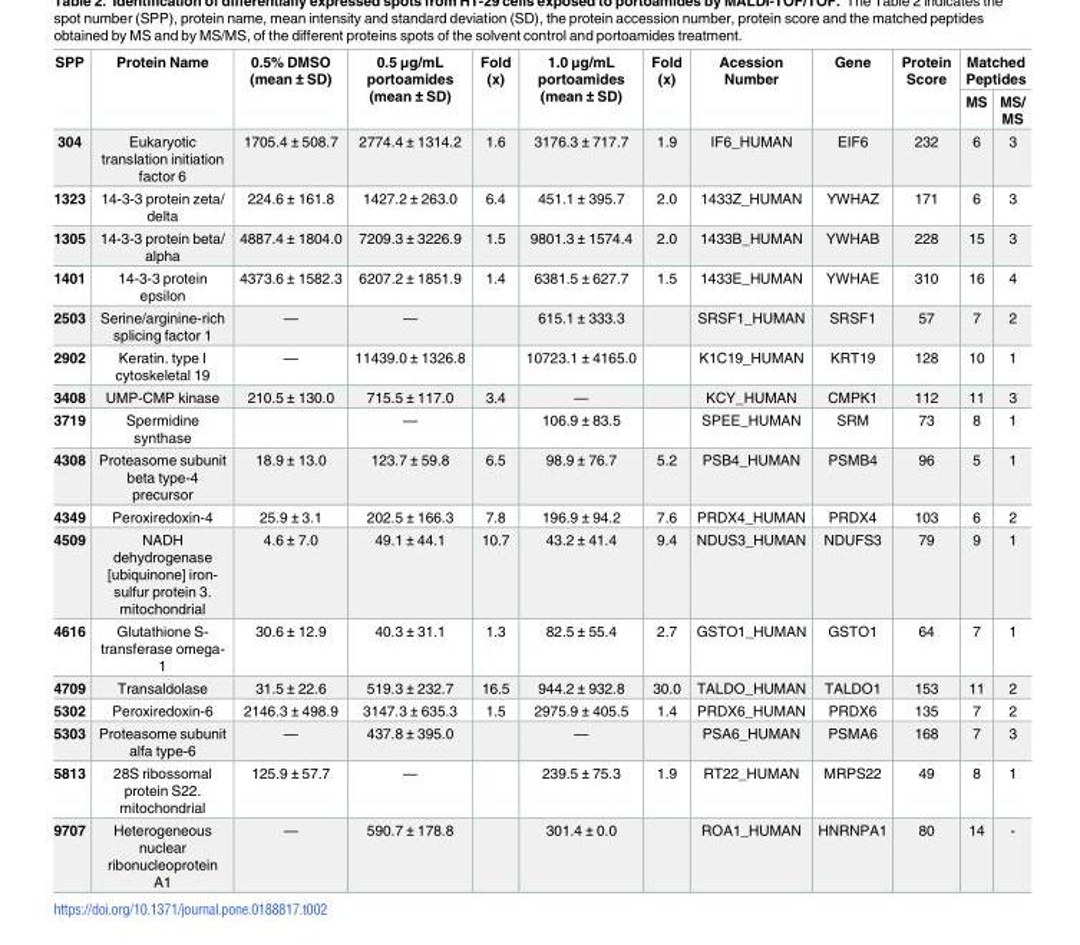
<table><thead><tr><td rowspan="2">SPP</td><td rowspan="2">Protein Name</td><td rowspan="2">0.5% DMSO (mean ± SD)</td><td rowspan="2">0.5 μg/mL portoamides (mean ± SD)</td><td rowspan="2">Fold (x)</td><td rowspan="2">1.0 μg/mL portoamides (mean ± SD)</td><td rowspan="2">Fold (x)</td><td rowspan="2">Acession Number</td><td rowspan="2">Gene</td><td rowspan="2">Protein Score</td><td colspan="2">Matched Peptides</td></tr><tr><td>MS</td><td>MS/ MS</td></tr></thead><tbody><tr><td>304</td><td>Eukaryotic translation initiation factor 6</td><td>1705.4 ± 508.7</td><td>2774.4 ± 1314.2</td><td>1.6</td><td>3176.3 ± 717.7</td><td>1.9</td><td>IF6_HUMAN</td><td>EIF6</td><td>232</td><td>6</td><td>3</td></tr><tr><td>1323</td><td>14-3-3 protein zeta/ delta</td><td>224.6 ± 161.8</td><td>1427.2 ± 263.0</td><td>6.4</td><td>451.1 ± 395.7</td><td>2.0</td><td>1433Z_HUMAN</td><td>YWHAZ</td><td>171</td><td>6</td><td>3</td></tr><tr><td>1305</td><td>14-3-3 protein beta/ alpha</td><td>4887.4 ± 1804.0</td><td>7209.3 ± 3226.9</td><td>1.5</td><td>9801.3 ± 1574.4</td><td>2.0</td><td>1433B_HUMAN</td><td>YWHAB</td><td>228</td><td>15</td><td>3</td></tr><tr><td>1401</td><td>14-3-3 protein epsilon</td><td>4373.6 ± 1582.3</td><td>6207.2 ± 1851.9</td><td>1.4</td><td>6381.5 ± 627.7</td><td>1.5</td><td>1433E_HUMAN</td><td>YWHAE</td><td>310</td><td>16</td><td>4</td></tr><tr><td>2503</td><td>Serine/arginine-rich splicing factor 1</td><td>—</td><td>—</td><td></td><td>615.1 ± 333.3</td><td></td><td>SRSF1_HUMAN</td><td>SRSF1</td><td>57</td><td>7</td><td>2</td></tr><tr><td>2902</td><td>Keratin. type I cytoskeletal 19</td><td>—</td><td>11439.0 ± 1326.8</td><td></td><td>10723.1 ± 4165.0</td><td></td><td>K1C19_HUMAN</td><td>KRT19</td><td>128</td><td>10</td><td>1</td></tr><tr><td>3408</td><td>UMP-CMP kinase</td><td>210.5 ± 130.0</td><td>715.5 ± 117.0</td><td>3.4</td><td>—</td><td></td><td>KCY_HUMAN</td><td>CMPK1</td><td>112</td><td>11</td><td>3</td></tr><tr><td>3719</td><td>Spermidine synthase</td><td></td><td>—</td><td></td><td>106.9 ± 83.5</td><td></td><td>SPEE_HUMAN</td><td>SRM</td><td>73</td><td>8</td><td>1</td></tr><tr><td>4308</td><td>Proteasome subunit beta type-4 precursor</td><td>18.9 ± 13.0</td><td>123.7 ± 59.8</td><td>6.5</td><td>98.9 ± 76.7</td><td>5.2</td><td>PSB4_HUMAN</td><td>PSMB4</td><td>96</td><td>5</td><td>1</td></tr><tr><td>4349</td><td>Peroxiredoxin-4</td><td>25.9 ± 3.1</td><td>202.5 ± 166.3</td><td>7.8</td><td>196.9 ± 94.2</td><td>7.6</td><td>PRDX4_HUMAN</td><td>PRDX4</td><td>103</td><td>6</td><td>2</td></tr><tr><td>4509</td><td>NADH dehydrogenase [ubiquinone] iron- sulfur protein 3. mitochondrial</td><td>4.6 ± 7.0</td><td>49.1 ± 44.1</td><td>10.7</td><td>43.2 ± 41.4</td><td>9.4</td><td>NDUS3_HUMAN</td><td>NDUFS3</td><td>79</td><td>9</td><td>1</td></tr><tr><td>4616</td><td>Glutathione S- transferase omega- 1</td><td>30.6 ± 12.9</td><td>40.3 ± 31.1</td><td>1.3</td><td>82.5 ± 55.4</td><td>2.7</td><td>GSTO1_HUMAN</td><td>GSTO1</td><td>64</td><td>7</td><td>1</td></tr><tr><td>4709</td><td>Transaldolase</td><td>31.5 ± 22.6</td><td>519.3 ± 232.7</td><td>16.5</td><td>944.2 ± 932.8</td><td>30.0</td><td>TALDO_HUMAN</td><td>TALDO1</td><td>153</td><td>11</td><td>2</td></tr><tr><td>5302</td><td>Peroxiredoxin-6</td><td>2146.3 ± 498.9</td><td>3147.3 ± 635.3</td><td>1.5</td><td>2975.9 ± 405.5</td><td>1.4</td><td>PRDX6_HUMAN</td><td>PRDX6</td><td>135</td><td>7</td><td>2</td></tr><tr><td>5303</td><td>Proteasome subunit alfa type-6</td><td>—</td><td>437.8 ± 395.0</td><td></td><td>—</td><td></td><td>PSA6_HUMAN</td><td>PSMA6</td><td>168</td><td>7</td><td>3</td></tr><tr><td>5813</td><td>28S ribossomal protein S22. mitochondrial</td><td>125.9 ± 57.7</td><td>—</td><td></td><td>239.5 ± 75.3</td><td>1.9</td><td>RT22_HUMAN</td><td>MRPS22</td><td>49</td><td>8</td><td>1</td></tr><tr><td>9707</td><td>Heterogeneous nuclear ribonucleoprotein A1</td><td>—</td><td>590.7 ± 178.8</td><td></td><td>301.4 ± 0.0</td><td></td><td>ROA1_HUMAN</td><td>HNRNPA1</td><td>80</td><td>14</td><td>-</td></tr></tbody></table>